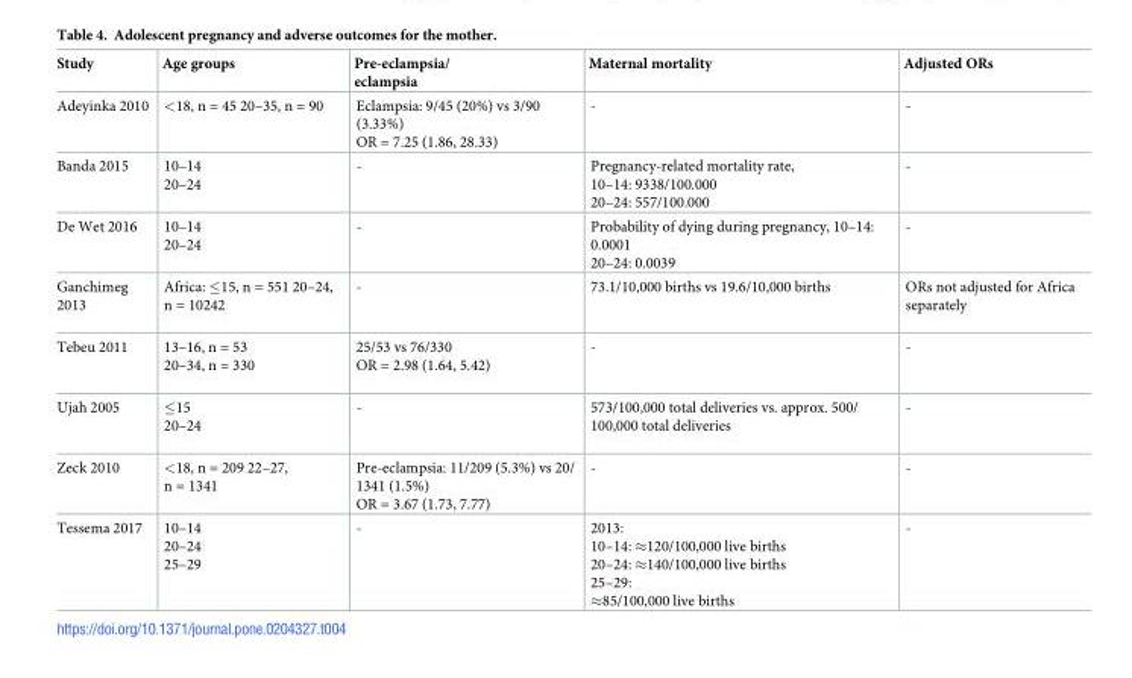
<table><thead><tr><td>Study</td><td>Age groups</td><td>Pre-eclampsia/ eclampsia</td><td>Maternal mortality</td><td>Adjusted ORs</td></tr></thead><tbody><tr><td>Adeyinka 2010</td><td>&lt;18, n = 45 20–35, n = 90</td><td>Eclampsia: 9/45 (20%) vs 3/90 (3.33%) OR = 7.25 (1.86, 28.33)</td><td>-</td><td>-</td></tr><tr><td>Banda 2015</td><td>10–14 20–24</td><td>-</td><td>Pregnancy-related mortality rate, 10–14: 9338/100.000 20–24: 557/100.000</td><td>-</td></tr><tr><td>De Wet 2016</td><td>10–14 20–24</td><td>-</td><td>Probability of dying during pregnancy, 10–14: 0.0001 20–24: 0.0039</td><td>-</td></tr><tr><td>Ganchimeg 2013</td><td>Africa: ≤15, n = 551 20–24, n = 10242</td><td>-</td><td>73.1/10,000 births vs 19.6/10,000 births</td><td>ORs not adjusted for Africa separately</td></tr><tr><td>Tebeu 2011</td><td>13–16, n = 53 20–34, n = 330</td><td>25/53 vs 76/330 OR = 2.98 (1.64, 5.42)</td><td>-</td><td>-</td></tr><tr><td>Ujah 2005</td><td>≤15 20–24</td><td>-</td><td>573/100,000 total deliveries vs. approx. 500/ 100,000 total deliveries</td><td>-</td></tr><tr><td>Zeck 2010</td><td>&lt;18, n = 209 22–27, n = 1341</td><td>Pre-eclampsia: 11/209 (5.3%) vs 20/ 1341 (1.5%) OR = 3.67 (1.73, 7.77)</td><td>-</td><td>-</td></tr><tr><td>Tessema 2017</td><td>10–14 20–24 25–29</td><td>-</td><td>2013: 10–14: ≈120/100,000 live births 20–24: ≈140/100,000 live births 25–29: ≈85/100,000 live births</td><td>-</td></tr></tbody></table>